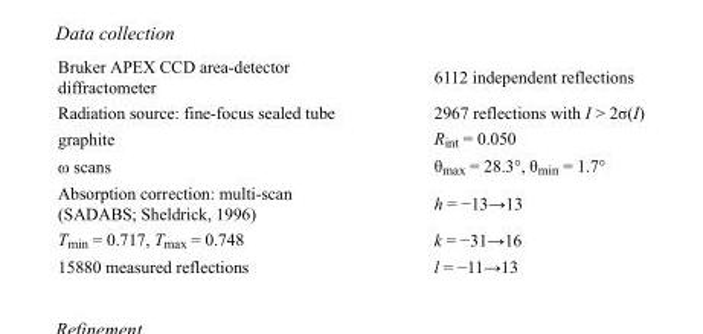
<table><tbody><tr><td>Bruker APEX CCD area-detector diffractometer</td><td>6112 independent reflections</td></tr><tr><td>Radiation source: fine-focus sealed tube</td><td>2967 reflections with I &gt; 2σ(I)</td></tr><tr><td>graphite</td><td>R<sub>int</sub> = 0.050</td></tr><tr><td>ω scans</td><td>θ<sub>max</sub> = 28.3°, θ<sub>min</sub> = 1.7°</td></tr><tr><td>Absorption correction: multi-scan (SADABS; Sheldrick, 1996)</td><td>h = −13→13</td></tr><tr><td>T<sub>min</sub> = 0.717, T<sub>max</sub> = 0.748</td><td>k = −31→16</td></tr><tr><td>15880 measured reflections</td><td>l = −11→13</td></tr></tbody></table>